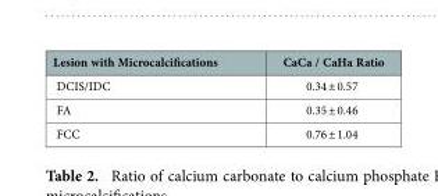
<table><thead><tr><td>Lesion with Microcalcifications</td><td>CaCa / CaHa Ratio</td></tr></thead><tbody><tr><td>DCIS/IDC</td><td>0.34 ± 0.57</td></tr><tr><td>FA</td><td>0.35 ± 0.46</td></tr><tr><td>FCC</td><td>0.76 ± 1.04</td></tr></tbody></table>